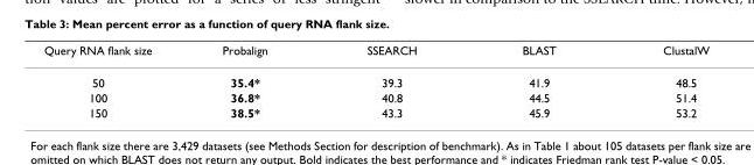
<table><thead><tr><td>Query RNA flank size</td><td>Probalign</td><td>SSEARCH</td><td>BLAST</td><td>ClustalW</td></tr></thead><tbody><tr><td>50</td><td>35.4*</td><td>39.3</td><td>41.9</td><td>48.5</td></tr><tr><td>100</td><td>36.8*</td><td>40.8</td><td>44.5</td><td>51.4</td></tr><tr><td>150</td><td>38.5*</td><td>43.3</td><td>45.9</td><td>53.2</td></tr></tbody></table>